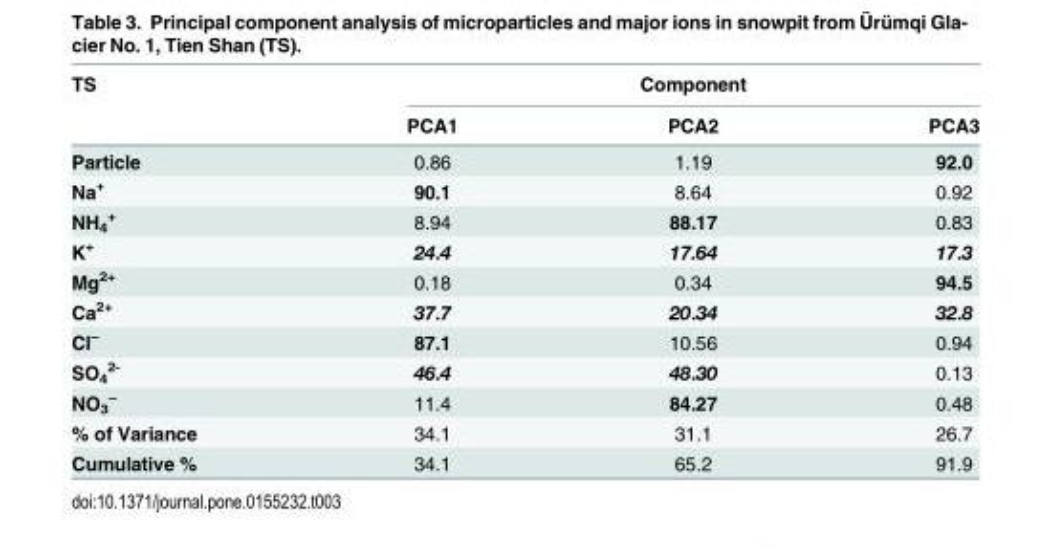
<table><thead><tr><td rowspan="2">TS</td><td colspan="3">Component</td></tr><tr><td>PCA1</td><td>PCA2</td><td>PCA3</td></tr></thead><tbody><tr><td>Particle</td><td>0.86</td><td>1.19</td><td>92.0</td></tr><tr><td>Na<sup>+</sup></td><td>90.1</td><td>8.64</td><td>0.92</td></tr><tr><td>NH<sub>4</sub> <sup>+</sup></td><td>8.94</td><td>88.17</td><td>0.83</td></tr><tr><td>K<sup>+</sup></td><td>24.4</td><td>17.64</td><td>17.3</td></tr><tr><td>Mg<sup>2+</sup></td><td>0.18</td><td>0.34</td><td>94.5</td></tr><tr><td>Ca<sup>2+</sup></td><td>37.7</td><td>20.34</td><td>32.8</td></tr><tr><td>Cl<sup>–</sup></td><td>87.1</td><td>10.56</td><td>0.94</td></tr><tr><td>SO<sub>4</sub> <sup>2-</sup></td><td>46.4</td><td>48.30</td><td>0.13</td></tr><tr><td>NO<sub>3</sub> <sup>–</sup></td><td>11.4</td><td>84.27</td><td>0.48</td></tr><tr><td>% of Variance</td><td>34.1</td><td>31.1</td><td>26.7</td></tr><tr><td>Cumulative %</td><td>34.1</td><td>65.2</td><td>91.9</td></tr></tbody></table>